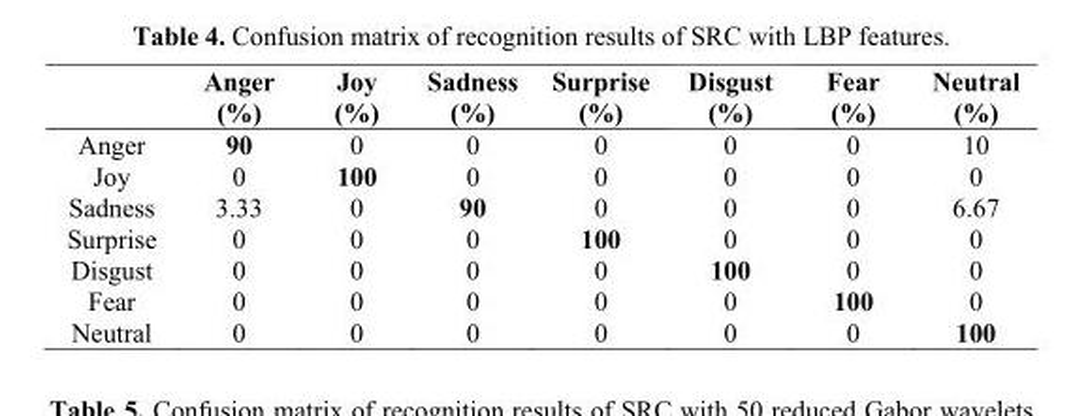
<table><thead><tr><td></td><td>Anger (%)</td><td>Joy (%)</td><td>Sadness (%)</td><td>Surprise (%)</td><td>Disgust (%)</td><td>Fear (%)</td><td>Neutral (%)</td></tr></thead><tbody><tr><td>Anger</td><td>90</td><td>0</td><td>0</td><td>0</td><td>0</td><td>0</td><td>10</td></tr><tr><td>Joy</td><td>0</td><td>100</td><td>0</td><td>0</td><td>0</td><td>0</td><td>0</td></tr><tr><td>Sadness</td><td>3.33</td><td>0</td><td>90</td><td>0</td><td>0</td><td>0</td><td>6.67</td></tr><tr><td>Surprise</td><td>0</td><td>0</td><td>0</td><td>100</td><td>0</td><td>0</td><td>0</td></tr><tr><td>Disgust</td><td>0</td><td>0</td><td>0</td><td>0</td><td>100</td><td>0</td><td>0</td></tr><tr><td>Fear</td><td>0</td><td>0</td><td>0</td><td>0</td><td>0</td><td>100</td><td>0</td></tr><tr><td>Neutral</td><td>0</td><td>0</td><td>0</td><td>0</td><td>0</td><td>0</td><td>100</td></tr></tbody></table>